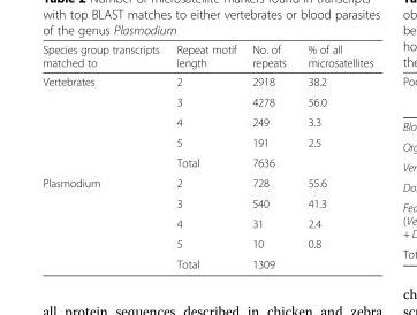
<table><thead><tr><td>Species group transcripts matched to</td><td>Repeat motif length</td><td>No. of repeats</td><td>% of all microsatellites</td></tr></thead><tbody><tr><td rowspan="5">Vertebrates</td><td>2</td><td>2918</td><td>38.2</td></tr><tr><td>3</td><td>4278</td><td>56.0</td></tr><tr><td>4</td><td>249</td><td>3.3</td></tr><tr><td>5</td><td>191</td><td>2.5</td></tr><tr><td>Total</td><td>7636</td><td></td></tr><tr><td rowspan="5">Plasmodium</td><td>2</td><td>728</td><td>55.6</td></tr><tr><td>3</td><td>540</td><td>41.3</td></tr><tr><td>4</td><td>31</td><td>2.4</td></tr><tr><td>5</td><td>10</td><td>0.8</td></tr><tr><td>Total</td><td>1309</td><td></td></tr></tbody></table>